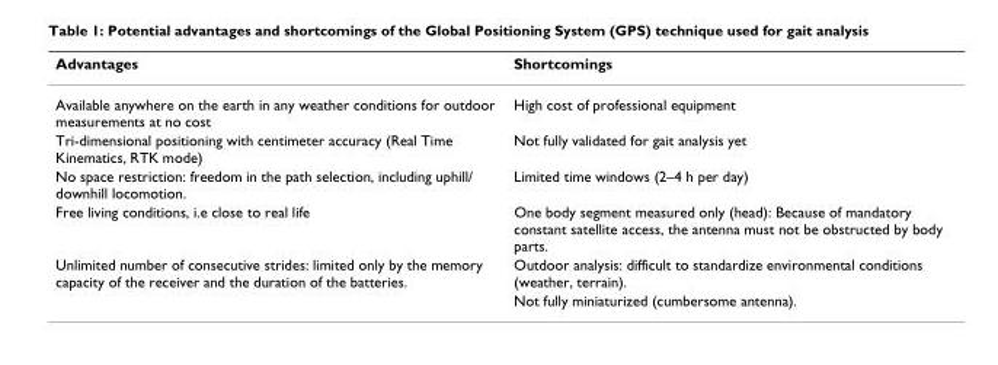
<table><thead><tr><td>Advantages</td><td>Shortcomings</td></tr></thead><tbody><tr><td>Available anywhere on the earth in any weather conditions for outdoor measurements at no cost</td><td>High cost of professional equipment</td></tr><tr><td>Tri-dimensional positioning with centimeter accuracy (Real Time Kinematics, RTK mode)</td><td>Not fully validated for gait analysis yet</td></tr><tr><td>No space restriction: freedom in the path selection, including uphill/ downhill locomotion.</td><td>Limited time windows (2–4 h per day)</td></tr><tr><td>Free living conditions, i.e close to real life</td><td>One body segment measured only (head): Because of mandatory constant satellite access, the antenna must not be obstructed by body parts.</td></tr><tr><td rowspan="2">Unlimited number of consecutive strides: limited only by the memory capacity of the receiver and the duration of the batteries.</td><td>Outdoor analysis: difficult to standardize environmental conditions (weather, terrain).</td></tr><tr><td>Not fully miniaturized (cumbersome antenna).</td></tr></tbody></table>